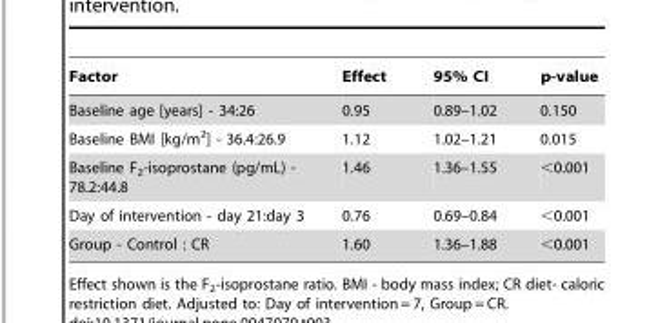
<table><thead><tr><td>Factor</td><td>Effect</td><td>95% CI</td><td>p-value</td></tr></thead><tbody><tr><td>Baseline age [years] - 34:26</td><td>0.95</td><td>0.89–1.02</td><td>0.150</td></tr><tr><td>Baseline BMI [kg/m2] - 36.4:26.9</td><td>1.12</td><td>1.02–1.21</td><td>0.015</td></tr><tr><td>Baseline F2-isoprostane (pg/mL) - 78.2:44.8</td><td>1.46</td><td>1.36–1.55</td><td>&lt;0.001</td></tr><tr><td>Day of intervention - day 21:day 3</td><td>0.76</td><td>0.69–0.84</td><td>&lt;0.001</td></tr><tr><td>Group - Control : CR</td><td>1.60</td><td>1.36–1.88</td><td>&lt;0.001</td></tr></tbody></table>